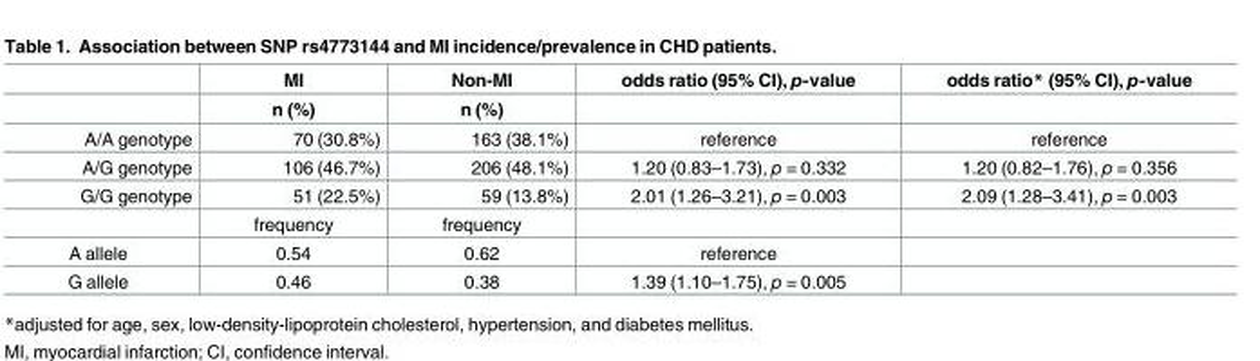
<table><thead><tr><td rowspan="2"></td><td rowspan="2">MI n (%)</td><td rowspan="2">Non-MI n (%)</td><td rowspan="2">odds ratio (95% CI), p-value</td><td rowspan="2">odds ratio* (95% CI), p-value</td></tr><tr></tr></thead><tbody><tr><td>A/A genotype</td><td>70 (30.8%)</td><td>163 (38.1%)</td><td>reference</td><td>reference</td></tr><tr><td>A/G genotype</td><td>106 (46.7%)</td><td>206 (48.1%)</td><td>1.20 (0.83–1.73), p = 0.332</td><td>1.20 (0.82–1.76), p = 0.356</td></tr><tr><td rowspan="2">G/G genotype</td><td>51 (22.5%)</td><td>59 (13.8%)</td><td>2.01 (1.26–3.21), p = 0.003</td><td>2.09 (1.28–3.41), p = 0.003</td></tr><tr><td>frequency</td><td>frequency</td><td></td><td></td></tr><tr><td>A allele</td><td>0.54</td><td>0.62</td><td>reference</td><td></td></tr><tr><td>G allele</td><td>0.46</td><td>0.38</td><td>1.39 (1.10–1.75), p = 0.005</td><td></td></tr></tbody></table>